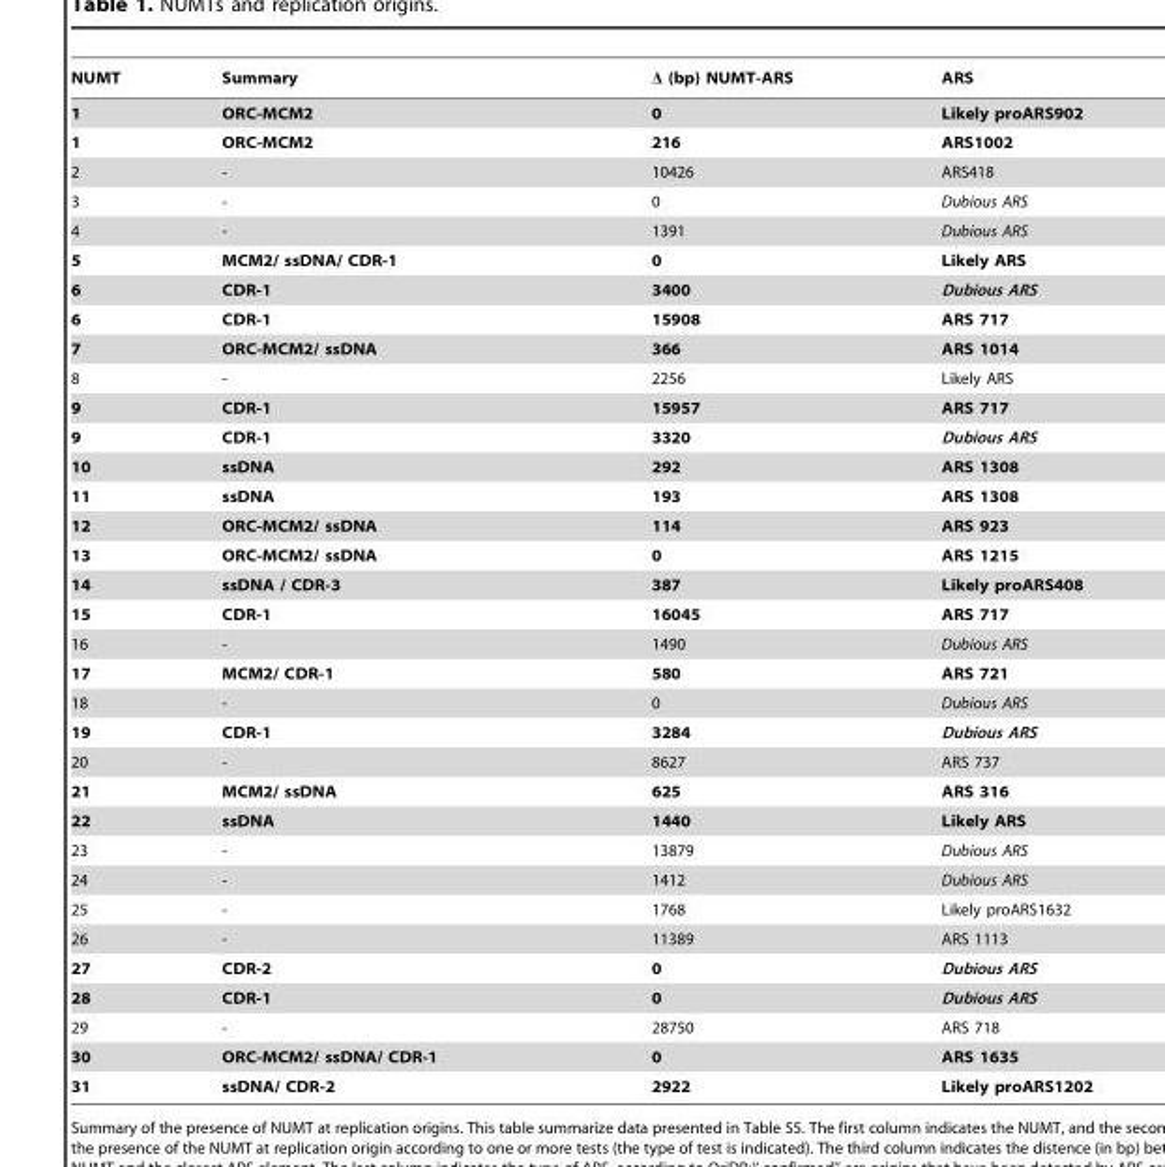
<table><thead><tr><td>NUMT</td><td>Summary</td><td>Δ (bp) NUMT-ARS</td><td>ARS</td></tr></thead><tbody><tr><td>1</td><td>ORC-MCM2</td><td>0</td><td>Likely proARS902</td></tr><tr><td>1</td><td>ORC-MCM2</td><td>216</td><td>ARS1002</td></tr><tr><td>2</td><td>-</td><td>10426</td><td>ARS418</td></tr><tr><td>3</td><td>-</td><td>0</td><td>Dubious ARS</td></tr><tr><td>4</td><td>-</td><td>1391</td><td>Dubious ARS</td></tr><tr><td>5</td><td>MCM2/ ssDNA/ CDR-1</td><td>0</td><td>Likely ARS</td></tr><tr><td>6</td><td>CDR-1</td><td>3400</td><td>Dubious ARS</td></tr><tr><td>6</td><td>CDR-1</td><td>15908</td><td>ARS 717</td></tr><tr><td>7</td><td>ORC-MCM2/ ssDNA</td><td>366</td><td>ARS 1014</td></tr><tr><td>8</td><td>-</td><td>2256</td><td>Likely ARS</td></tr><tr><td>9</td><td>CDR-1</td><td>15957</td><td>ARS 717</td></tr><tr><td>9</td><td>CDR-1</td><td>3320</td><td>Dubious ARS</td></tr><tr><td>10</td><td>ssDNA</td><td>292</td><td>ARS 1308</td></tr><tr><td>11</td><td>ssDNA</td><td>193</td><td>ARS 1308</td></tr><tr><td>12</td><td>ORC-MCM2/ ssDNA</td><td>114</td><td>ARS 923</td></tr><tr><td>13</td><td>ORC-MCM2/ ssDNA</td><td>0</td><td>ARS 1215</td></tr><tr><td>14</td><td>ssDNA / CDR-3</td><td>387</td><td>Likely proARS408</td></tr><tr><td>15</td><td>CDR-1</td><td>16045</td><td>ARS 717</td></tr><tr><td>16</td><td>-</td><td>1490</td><td>Dubious ARS</td></tr><tr><td>17</td><td>MCM2/ CDR-1</td><td>580</td><td>ARS 721</td></tr><tr><td>18</td><td>-</td><td>0</td><td>Dubious ARS</td></tr><tr><td>19</td><td>CDR-1</td><td>3284</td><td>Dubious ARS</td></tr><tr><td>20</td><td>-</td><td>8627</td><td>ARS 737</td></tr><tr><td>21</td><td>MCM2/ ssDNA</td><td>625</td><td>ARS 316</td></tr><tr><td>22</td><td>ssDNA</td><td>1440</td><td>Likely ARS</td></tr><tr><td>23</td><td>-</td><td>13879</td><td>Dubious ARS</td></tr><tr><td>24</td><td>-</td><td>1412</td><td>Dubious ARS</td></tr><tr><td>25</td><td>-</td><td>1768</td><td>Likely proARS1632</td></tr><tr><td>26</td><td>-</td><td>11389</td><td>ARS 1113</td></tr><tr><td>27</td><td>CDR-2</td><td>0</td><td>Dubious ARS</td></tr><tr><td>28</td><td>CDR-1</td><td>0</td><td>Dubious ARS</td></tr><tr><td>29</td><td>-</td><td>28750</td><td>ARS 718</td></tr><tr><td>30</td><td>ORC-MCM2/ ssDNA/ CDR-1</td><td>0</td><td>ARS 1635</td></tr><tr><td>31</td><td>ssDNA/ CDR-2</td><td>2922</td><td>Likely proARS1202</td></tr></tbody></table>